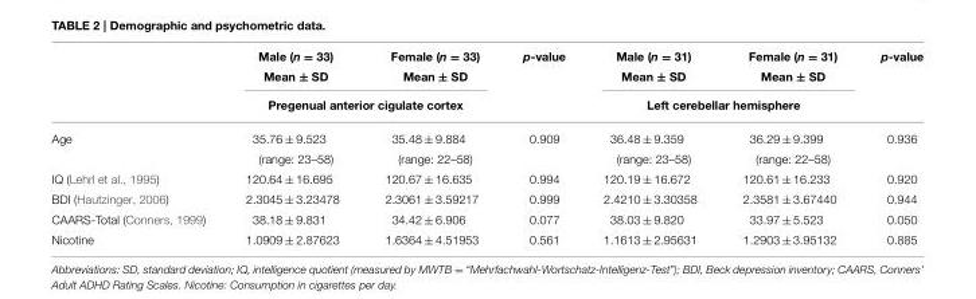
<table><thead><tr><td rowspan="3"></td><td rowspan="2">Male (n = 33) Mean ± SD</td><td rowspan="2">Female (n = 33) Mean ± SD</td><td rowspan="3">p-value</td><td rowspan="2">Male (n = 31) Mean ± SD</td><td rowspan="2">Female (n = 31) Mean ± SD</td><td rowspan="3">p-value</td></tr><tr></tr><tr><td colspan="2">Pregenual anterior cigulate cortex</td><td colspan="2">Left cerebellar hemisphere</td></tr></thead><tbody><tr><td>Age</td><td>35.76 ± 9.523 (range: 23–58)</td><td>35.48 ± 9.884 (range: 22–58)</td><td>0.909</td><td>36.48 ± 9.359 (range: 23–58)</td><td>36.29 ± 9.399 (range: 22–58)</td><td>0.936</td></tr><tr><td>IQ (Lehrl et al., 1995)</td><td>120.64 ± 16.695</td><td>120.67 ± 16.635</td><td>0.994</td><td>120.19 ± 16.672</td><td>120.61 ± 16.233</td><td>0.920</td></tr><tr><td>BDI (Hautzinger, 2006)</td><td>2.3045 ± 3.23478</td><td>2.3061 ± 3.59217</td><td>0.999</td><td>2.4210 ± 3.30358</td><td>2.3581 ± 3.67440</td><td>0.944</td></tr><tr><td>CAARS-Total (Conners, 1999)</td><td>38.18 ± 9.831</td><td>34.42 ± 6.906</td><td>0.077</td><td>38.03 ± 9.820</td><td>33.97 ± 5.523</td><td>0.050</td></tr><tr><td>Nicotine</td><td>1.0909 ± 2.87623</td><td>1.6364 ± 4.51953</td><td>0.561</td><td>1.1613 ± 2.95631</td><td>1.2903 ± 3.95132</td><td>0.885</td></tr></tbody></table>